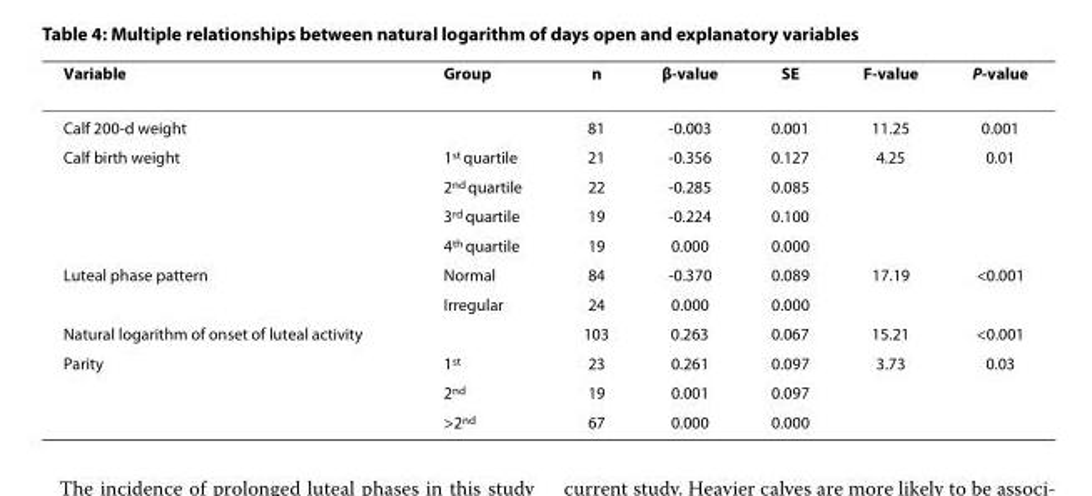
<table><thead><tr><td>Variable</td><td>Group</td><td>n</td><td>β-value</td><td>SE</td><td>F-value</td><td>P-value</td></tr></thead><tbody><tr><td>Calf 200-d weight</td><td></td><td>81</td><td>-0.003</td><td>0.001</td><td>11.25</td><td>0.001</td></tr><tr><td rowspan="4">Calf birth weight</td><td>1<sup>st</sup> quartile</td><td>21</td><td>-0.356</td><td>0.127</td><td>4.25</td><td>0.01</td></tr><tr><td>2<sup>nd</sup> quartile</td><td>22</td><td>-0.285</td><td>0.085</td><td></td><td></td></tr><tr><td>3<sup>rd</sup> quartile</td><td>19</td><td>-0.224</td><td>0.100</td><td></td><td></td></tr><tr><td>4<sup>th</sup> quartile</td><td>19</td><td>0.000</td><td>0.000</td><td></td><td></td></tr><tr><td rowspan="2">Luteal phase pattern</td><td>Normal</td><td>84</td><td>-0.370</td><td>0.089</td><td>17.19</td><td>&lt;0.001</td></tr><tr><td>Irregular</td><td>24</td><td>0.000</td><td>0.000</td><td></td><td></td></tr><tr><td>Natural logarithm of onset of luteal activity</td><td></td><td>103</td><td>0.263</td><td>0.067</td><td>15.21</td><td>&lt;0.001</td></tr><tr><td rowspan="3">Parity</td><td>1<sup>st</sup></td><td>23</td><td>0.261</td><td>0.097</td><td>3.73</td><td>0.03</td></tr><tr><td>2<sup>nd</sup></td><td>19</td><td>0.001</td><td>0.097</td><td></td><td></td></tr><tr><td>&gt;2<sup>nd</sup></td><td>67</td><td>0.000</td><td>0.000</td><td></td><td></td></tr></tbody></table>